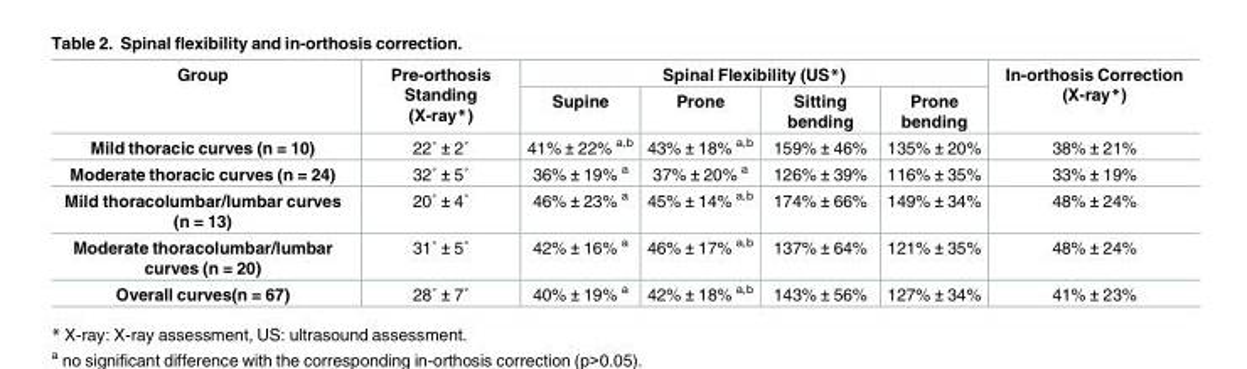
<table><thead><tr><td rowspan="2">Group</td><td rowspan="2">Pre-orthosis Standing (X-ray*)</td><td colspan="4">Spinal Flexibility (US*)</td><td rowspan="2">In-orthosis Correction (X-ray*)</td></tr><tr><td>Supine</td><td>Prone</td><td>Sitting bending</td><td>Prone bending</td></tr></thead><tbody><tr><td>Mild thoracic curves (n = 10)</td><td>22˚ ± 2˚</td><td>41% ± 22% <sup>a,b</sup></td><td>43% ± 18% <sup>a,b</sup></td><td>159% ± 46%</td><td>135% ± 20%</td><td>38% ± 21%</td></tr><tr><td>Moderate thoracic curves (n = 24)</td><td>32˚ ± 5˚</td><td>36% ± 19% <sup>a</sup></td><td>37% ± 20% <sup>a</sup></td><td>126% ± 39%</td><td>116% ± 35%</td><td>33% ± 19%</td></tr><tr><td>Mild thoracolumbar/lumbar curves (n = 13)</td><td>20˚ ± 4˚</td><td>46% ± 23% <sup>a</sup></td><td>45% ± 14% <sup>a,b</sup></td><td>174% ± 66%</td><td>149% ± 34%</td><td>48% ± 24%</td></tr><tr><td>Moderate thoracolumbar/lumbar curves (n = 20)</td><td>31˚ ± 5˚</td><td>42% ± 16% <sup>a</sup></td><td>46% ± 17% <sup>a,b</sup></td><td>137% ± 64%</td><td>121% ± 35%</td><td>48% ± 24%</td></tr><tr><td>Overall curves(n = 67)</td><td>28˚ ± 7˚</td><td>40% ± 19% <sup>a</sup></td><td>42% ± 18% <sup>a,b</sup></td><td>143% ± 56%</td><td>127% ± 34%</td><td>41% ± 23%</td></tr></tbody></table>